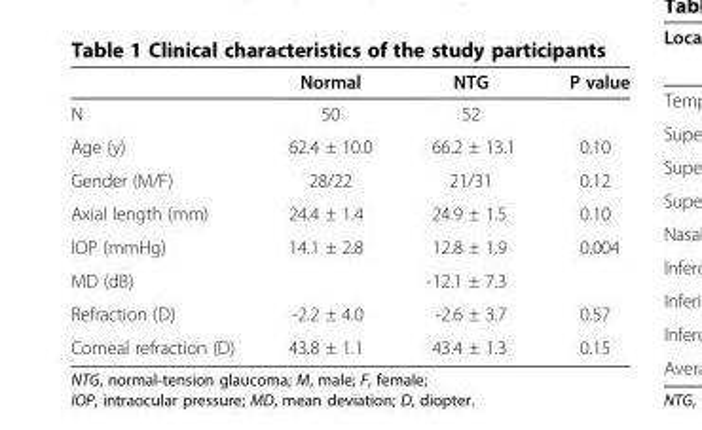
<table><thead><tr><td></td><td>Normal</td><td>NTG</td><td>P value</td></tr></thead><tbody><tr><td>N</td><td>50</td><td>52</td><td></td></tr><tr><td>Age (y)</td><td>62.4 ± 10.0</td><td>66.2 ± 13.1</td><td>0.10</td></tr><tr><td>Gender (M/F)</td><td>28/22</td><td>21/31</td><td>0.12</td></tr><tr><td>Axial length (mm)</td><td>24.4 ± 1.4</td><td>24.9 ± 1.5</td><td>0.10</td></tr><tr><td>IOP (mmHg)</td><td>14.1 ± 2.8</td><td>12.8 ± 1.9</td><td>0.004</td></tr><tr><td>MD (dB)</td><td></td><td>-12.1 ± 7.3</td><td></td></tr><tr><td>Refraction (D)</td><td>-2.2 ± 4.0</td><td>-2.6 ± 3.7</td><td>0.57</td></tr><tr><td>Corneal refraction (D)</td><td>43.8 ± 1.1</td><td>43.4 ± 1.3</td><td>0.15</td></tr></tbody></table>